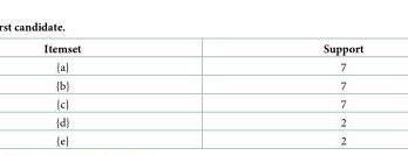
<table><thead><tr><td>Itemset</td><td>Support</td></tr></thead><tbody><tr><td>{a}</td><td>7</td></tr><tr><td>{b}</td><td>7</td></tr><tr><td>{c}</td><td>7</td></tr></tbody></table>